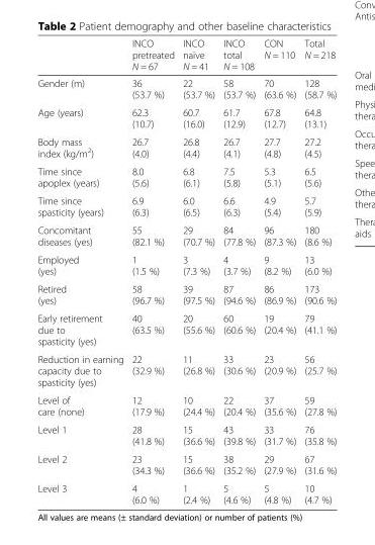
<table><thead><tr><td></td><td>INCO pretreated N = 67</td><td>INCO naïve N = 41</td><td>INCO total N = 108</td><td>CON N = 110</td><td>Total N = 218</td></tr></thead><tbody><tr><td>Gender (m)</td><td>36 (53.7 %)</td><td>22 (53.7 %)</td><td>58 (53.7 %)</td><td>70 (63.6 %)</td><td>128 (58.7 %)</td></tr><tr><td>Age (years)</td><td>62.3 (10.7)</td><td>60.7 (16.0)</td><td>61.7 (12.9)</td><td>67.8 (12.7)</td><td>64.8 (13.1)</td></tr><tr><td>Body mass index (kg/m<sup>2</sup>)</td><td>26.7 (4.0)</td><td>26.8 (4.4)</td><td>26.7 (4.1)</td><td>27.7 (4.8)</td><td>27.2 (4.5)</td></tr><tr><td>Time since apoplex (years)</td><td>8.0 (5.6)</td><td>6.8 (6.1)</td><td>7.5 (5.8)</td><td>5.3 (5.1)</td><td>6.5 (5.6)</td></tr><tr><td>Time since spasticity (years)</td><td>6.9 (6.3)</td><td>6.0 (6.5)</td><td>6.6 (6.3)</td><td>4.9 (5.4)</td><td>5.7 (5.9)</td></tr><tr><td>Concomitant diseases (yes)</td><td>55 (82.1 %)</td><td>29 (70.7 %)</td><td>84 (77.8 %)</td><td>96 (87.3 %)</td><td>180 (8.6 %)</td></tr><tr><td>Employed (yes)</td><td>1 (1.5 %)</td><td>3 (7.3 %)</td><td>4 (3.7 %)</td><td>9 (8.2 %)</td><td>13 (6.0 %)</td></tr><tr><td>Retired (yes)</td><td>58 (96.7 %)</td><td>39 (97.5 %)</td><td>87 (94.6 %)</td><td>86 (86.9 %)</td><td>173 (90.6 %)</td></tr><tr><td>Early retirement due to spasticity (yes)</td><td>40 (63.5 %)</td><td>20 (55.6 %)</td><td>60 (60.6 %)</td><td>19 (20.4 %)</td><td>79 (41.1 %)</td></tr><tr><td>Reduction in earning capacity due to spasticity (yes)</td><td>22 (32.9 %)</td><td>11 (26.8 %)</td><td>33 (30.6 %)</td><td>23 (20.9 %)</td><td>56 (25.7 %)</td></tr><tr><td>Level of care (none)</td><td>12 (17.9 %)</td><td>10 (24.4 %)</td><td>22 (20.4 %)</td><td>37 (35.6 %)</td><td>59 (27.8 %)</td></tr><tr><td>Level 1</td><td>28 (41.8 %)</td><td>15 (36.6 %)</td><td>43 (39.8 %)</td><td>33 (31.7 %)</td><td>76 (35.8 %)</td></tr><tr><td>Level 2</td><td>23 (34.3 %)</td><td>15 (36.6 %)</td><td>38 (35.2 %)</td><td>29 (27.9 %)</td><td>67 (31.6 %)</td></tr><tr><td>Level 3</td><td>4 (6.0 %)</td><td>1 (2.4 %)</td><td>5 (4.6 %)</td><td>5 (4.8 %)</td><td>10 (4.7 %)</td></tr></tbody></table>